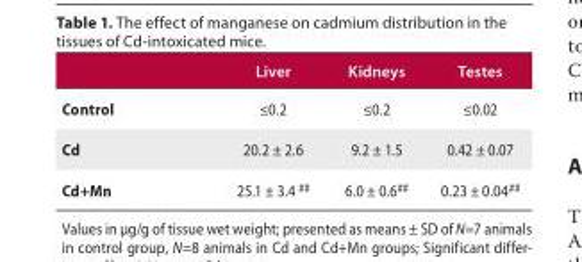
<table><thead><tr><td></td><td>Liver</td><td>Kidneys</td><td>Testes</td></tr></thead><tbody><tr><td>Control</td><td>≤0.2</td><td>≤0.2</td><td>≤0.02</td></tr><tr><td>Cd</td><td>20.2 ± 2.6</td><td>9.2 ± 1.5</td><td>0.42 ± 0.07</td></tr><tr><td>Cd+Mn</td><td>25.1 ± 3.4 <sup>##</sup></td><td>6.0 ± 0.6<sup>##</sup></td><td>0.23 ± 0.04<sup>##</sup></td></tr></tbody></table>